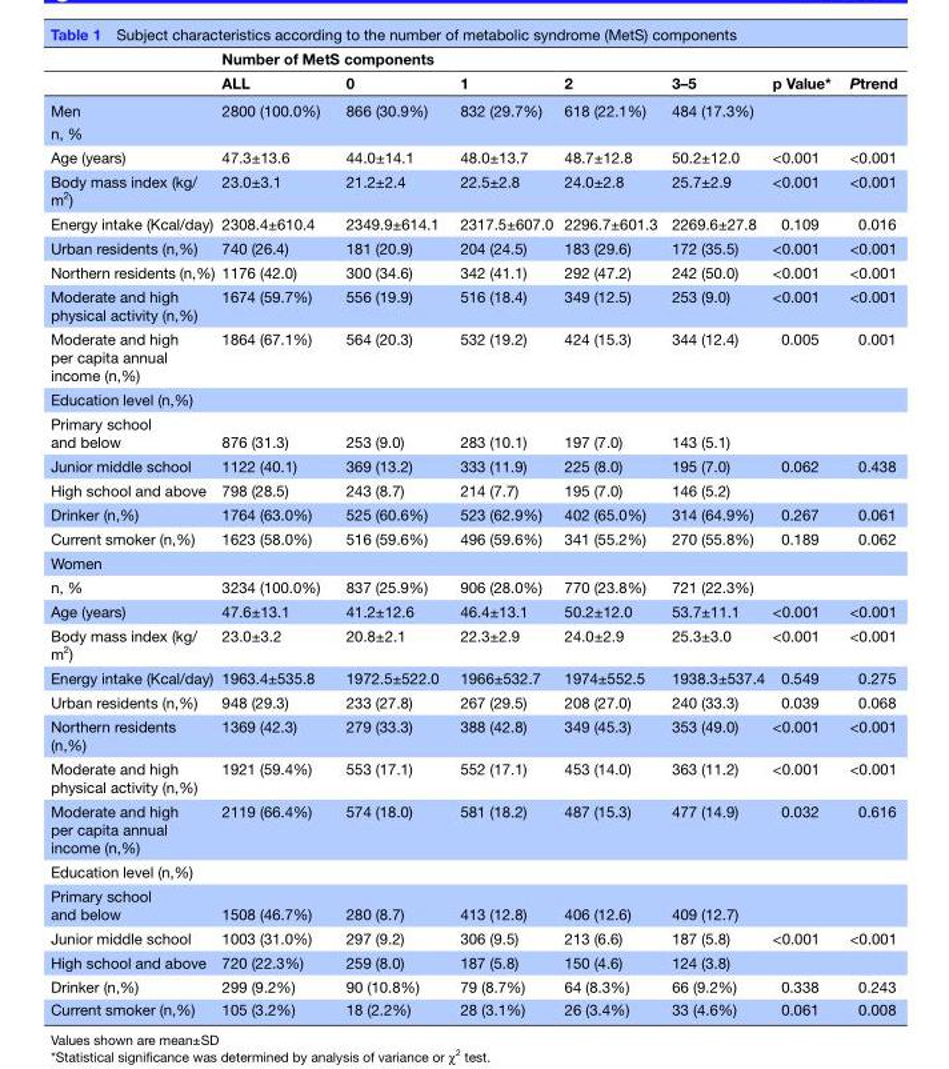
<table><thead><tr><td rowspan="2"></td><td colspan="5">Number of MetS components</td><td rowspan="2">p Value*</td><td rowspan="2">Ptrend</td></tr><tr><td>ALL</td><td>0</td><td>1</td><td>2</td><td>3–5</td></tr></thead><tbody><tr><td>Men</td><td rowspan="2">2800 (100.0%)</td><td rowspan="2">866 (30.9%)</td><td rowspan="2">832 (29.7%)</td><td rowspan="2">618 (22.1%)</td><td rowspan="2">484 (17.3%)</td><td rowspan="2" colspan="2"></td></tr><tr><td>n, %</td></tr><tr><td>Age (years)</td><td>47.3±13.6</td><td>44.0±14.1</td><td>48.0±13.7</td><td>48.7±12.8</td><td>50.2±12.0</td><td>&lt;0.001</td><td>&lt;0.001</td></tr><tr><td>Body mass index (kg/ m<sup>2</sup>)</td><td>23.0±3.1</td><td>21.2±2.4</td><td>22.5±2.8</td><td>24.0±2.8</td><td>25.7±2.9</td><td>&lt;0.001</td><td>&lt;0.001</td></tr><tr><td>Energy intake (Kcal/day)</td><td>2308.4±610.4</td><td>2349.9±614.1</td><td>2317.5±607.0</td><td>2296.7±601.3</td><td>2269.6±27.8</td><td>0.109</td><td>0.016</td></tr><tr><td>Urban residents (n,%)</td><td>740 (26.4)</td><td>181 (20.9)</td><td>204 (24.5)</td><td>183 (29.6)</td><td>172 (35.5)</td><td>&lt;0.001</td><td>&lt;0.001</td></tr><tr><td>Northern residents (n,%)</td><td>1176 (42.0)</td><td>300 (34.6)</td><td>342 (41.1)</td><td>292 (47.2)</td><td>242 (50.0)</td><td>&lt;0.001</td><td>&lt;0.001</td></tr><tr><td>Moderate and high physical activity (n,%)</td><td>1674 (59.7%)</td><td>556 (19.9)</td><td>516 (18.4)</td><td>349 (12.5)</td><td>253 (9.0)</td><td>&lt;0.001</td><td>&lt;0.001</td></tr><tr><td>Moderate and high per capita annual income (n,%)</td><td>1864 (67.1%)</td><td>564 (20.3)</td><td>532 (19.2)</td><td>424 (15.3)</td><td>344 (12.4)</td><td>0.005</td><td>0.001</td></tr><tr><td colspan="8">Education level (n,%)</td></tr><tr><td>Primary school and below</td><td>876 (31.3)</td><td>253 (9.0)</td><td>283 (10.1)</td><td>197 (7.0)</td><td>143 (5.1)</td><td></td><td></td></tr><tr><td>Junior middle school</td><td>1122 (40.1)</td><td>369 (13.2)</td><td>333 (11.9)</td><td>225 (8.0)</td><td>195 (7.0)</td><td>0.062</td><td>0.438</td></tr><tr><td>High school and above</td><td>798 (28.5)</td><td>243 (8.7)</td><td>214 (7.7)</td><td>195 (7.0)</td><td>146 (5.2)</td><td></td><td></td></tr><tr><td>Drinker (n,%)</td><td>1764 (63.0%)</td><td>525 (60.6%)</td><td>523 (62.9%)</td><td>402 (65.0%)</td><td>314 (64.9%)</td><td>0.267</td><td>0.061</td></tr><tr><td>Current smoker (n,%)</td><td>1623 (58.0%)</td><td>516 (59.6%)</td><td>496 (59.6%)</td><td>341 (55.2%)</td><td>270 (55.8%)</td><td>0.189</td><td>0.062</td></tr><tr><td colspan="8">Women</td></tr><tr><td>n, %</td><td>3234 (100.0%)</td><td>837 (25.9%)</td><td>906 (28.0%)</td><td>770 (23.8%)</td><td>721 (22.3%)</td><td></td><td></td></tr><tr><td>Age (years)</td><td>47.6±13.1</td><td>41.2±12.6</td><td>46.4±13.1</td><td>50.2±12.0</td><td>53.7±11.1</td><td>&lt;0.001</td><td>&lt;0.001</td></tr><tr><td>Body mass index (kg/ m<sup>2</sup>)</td><td>23.0±3.2</td><td>20.8±2.1</td><td>22.3±2.9</td><td>24.0±2.9</td><td>25.3±3.0</td><td>&lt;0.001</td><td>&lt;0.001</td></tr><tr><td>Energy intake (Kcal/day)</td><td>1963.4±535.8</td><td>1972.5±522.0</td><td>1966±532.7</td><td>1974±552.5</td><td>1938.3±537.4</td><td>0.549</td><td>0.275</td></tr><tr><td>Urban residents (n,%)</td><td>948 (29.3)</td><td>233 (27.8)</td><td>267 (29.5)</td><td>208 (27.0)</td><td>240 (33.3)</td><td>0.039</td><td>0.068</td></tr><tr><td>Northern residents (n,%)</td><td>1369 (42.3)</td><td>279 (33.3)</td><td>388 (42.8)</td><td>349 (45.3)</td><td>353 (49.0)</td><td>&lt;0.001</td><td>&lt;0.001</td></tr><tr><td>Moderate and high physical activity (n,%)</td><td>1921 (59.4%)</td><td>553 (17.1)</td><td>552 (17.1)</td><td>453 (14.0)</td><td>363 (11.2)</td><td>&lt;0.001</td><td>&lt;0.001</td></tr><tr><td>Moderate and high per capita annual income (n,%)</td><td>2119 (66.4%)</td><td>574 (18.0)</td><td>581 (18.2)</td><td>487 (15.3)</td><td>477 (14.9)</td><td>0.032</td><td>0.616</td></tr><tr><td colspan="8">Education level (n,%)</td></tr><tr><td>Primary school and below</td><td>1508 (46.7%)</td><td>280 (8.7)</td><td>413 (12.8)</td><td>406 (12.6)</td><td>409 (12.7)</td><td></td><td></td></tr><tr><td>Junior middle school</td><td>1003 (31.0%)</td><td>297 (9.2)</td><td>306 (9.5)</td><td>213 (6.6)</td><td>187 (5.8)</td><td>&lt;0.001</td><td>&lt;0.001</td></tr><tr><td>High school and above</td><td>720 (22.3%)</td><td>259 (8.0)</td><td>187 (5.8)</td><td>150 (4.6)</td><td>124 (3.8)</td><td></td><td></td></tr><tr><td>Drinker (n,%)</td><td>299 (9.2%)</td><td>90 (10.8%)</td><td>79 (8.7%)</td><td>64 (8.3%)</td><td>66 (9.2%)</td><td>0.338</td><td>0.243</td></tr><tr><td>Current smoker (n,%)</td><td>105 (3.2%)</td><td>18 (2.2%)</td><td>28 (3.1%)</td><td>26 (3.4%)</td><td>33 (4.6%)</td><td>0.061</td><td>0.008</td></tr></tbody></table>